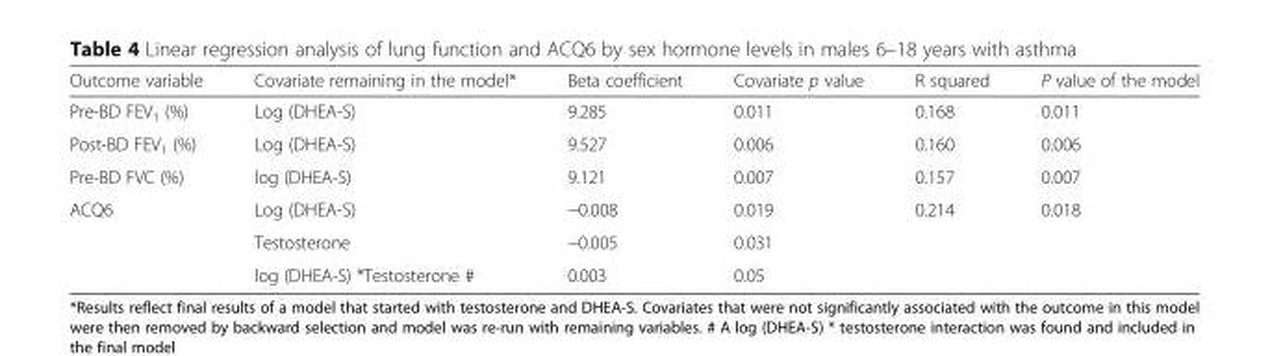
<table><thead><tr><td>Outcome variable</td><td>Covariate remaining in the model*</td><td>Beta coefficient</td><td>Covariate p value</td><td>R squared</td><td>P value of the model</td></tr></thead><tbody><tr><td>Pre-BD FEV<sub>1</sub> (%)</td><td>Log (DHEA-S)</td><td>9.285</td><td>0.011</td><td>0.168</td><td>0.011</td></tr><tr><td>Post-BD FEV<sub>1</sub> (%)</td><td>Log (DHEA-S)</td><td>9.527</td><td>0.006</td><td>0.160</td><td>0.006</td></tr><tr><td>Pre-BD FVC (%)</td><td>log (DHEA-S)</td><td>9.121</td><td>0.007</td><td>0.157</td><td>0.007</td></tr><tr><td rowspan="3">ACQ6</td><td>Log (DHEA-S)</td><td>−0.008</td><td>0.019</td><td>0.214</td><td>0.018</td></tr><tr><td>Testosterone</td><td>−0.005</td><td>0.031</td><td></td><td></td></tr><tr><td>log (DHEA-S) *Testosterone #</td><td>0.003</td><td>0.05</td><td></td><td></td></tr></tbody></table>